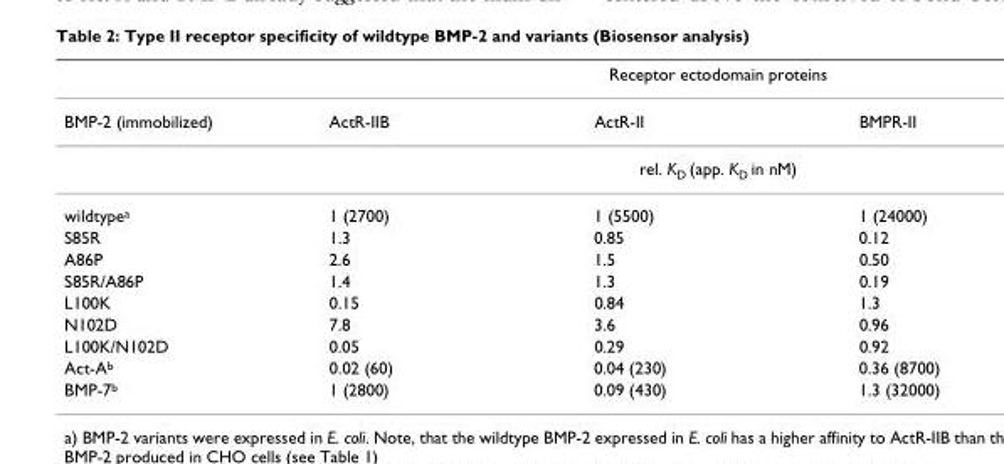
<table><thead><tr><td rowspan="2">BMP-2 (immobilized)</td><td colspan="3">Receptor ectodomain proteins</td></tr><tr><td>ActR-IIB</td><td>ActR-II</td><td>BMPR-II</td></tr></thead><tbody><tr><td></td><td colspan="3">rel. K<sub>D</sub> (app. K<sub>D</sub> in nM)</td></tr><tr><td>wildtype<sup>a</sup></td><td>1 (2700)</td><td>1 (5500)</td><td>1 (24000)</td></tr><tr><td>S85R</td><td>1.3</td><td>0.85</td><td>0.12</td></tr><tr><td>A86P</td><td>2.6</td><td>1.5</td><td>0.50</td></tr><tr><td>S85R/A86P</td><td>1.4</td><td>1.3</td><td>0.19</td></tr><tr><td>L100K</td><td>0.15</td><td>0.84</td><td>1.3</td></tr><tr><td>N102D</td><td>7.8</td><td>3.6</td><td>0.96</td></tr><tr><td>L100K/N102D</td><td>0.05</td><td>0.29</td><td>0.92</td></tr><tr><td>Act-A<sup>b</sup></td><td>0.02 (60)</td><td>0.04 (230)</td><td>0.36 (8700)</td></tr><tr><td>BMP-7<sup>b</sup></td><td>1 (2800)</td><td>0.09 (430)</td><td>1.3 (32000)</td></tr></tbody></table>